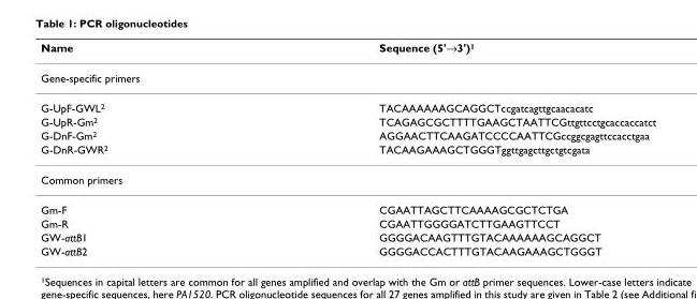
<table><thead><tr><td>Name</td><td>Sequence (5&#x27;→3&#x27;)1</td></tr></thead><tbody><tr><td colspan="2">Gene-specific primers</td></tr><tr><td>G-UpF-GWL2</td><td>TACAAAAAAGCAGGCTccgatcagttgcaacacatc</td></tr><tr><td>G-UpR-Gm2</td><td>TCAGAGCGCTTTTGAAGCTAATTCGttgttcctgcaccaccatct</td></tr><tr><td>G-DnF-Gm2</td><td>AGGAACTTCAAGATCCCCAATTCGccggcgagttccacctgaa</td></tr><tr><td>G-DnR-GWR2</td><td>TACAAGAAAGCTGGGTggttgagcttgctgtcgata</td></tr><tr><td colspan="2">Common primers</td></tr><tr><td>Gm-F</td><td>CGAATTAGCTTCAAAAGCGCTCTGA</td></tr><tr><td>Gm-R</td><td>CGAATTGGGGATCTTGAAGTTCCT</td></tr><tr><td>GW-attB1</td><td>GGGGACAAGTTTGTACAAAAAAGCAGGCT</td></tr><tr><td>GW-attB2</td><td>GGGGACCACTTTGTACAAGAAAGCTGGGT</td></tr></tbody></table>